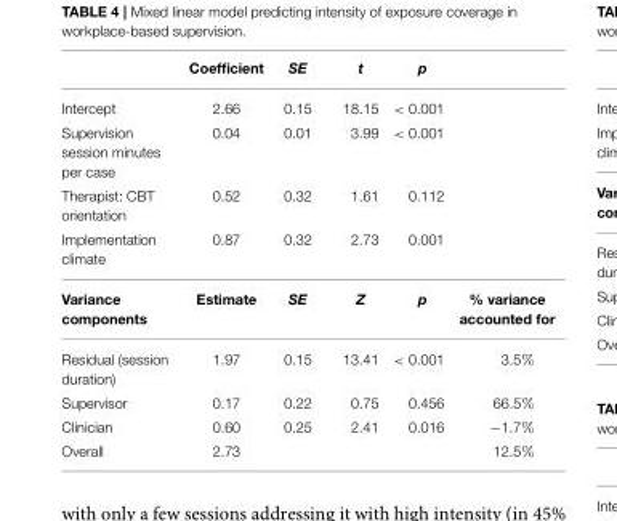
<table><thead><tr><td></td><td>Coefficient</td><td>SE</td><td>t</td><td>p</td><td></td></tr></thead><tbody><tr><td>Intercept</td><td>2.66</td><td>0.15</td><td>18.15</td><td>&lt; 0.001</td><td></td></tr><tr><td>Supervision session minutes per case</td><td>0.04</td><td>0.01</td><td>3.99</td><td>&lt; 0.001</td><td></td></tr><tr><td>Therapist: CBT orientation</td><td>0.52</td><td>0.32</td><td>1.61</td><td>0.112</td><td></td></tr><tr><td>Implementation climate</td><td>0.87</td><td>0.32</td><td>2.73</td><td>0.001</td><td></td></tr><tr><td>Variance components</td><td>Estimate</td><td>SE</td><td>Z</td><td>p</td><td>% variance accounted for</td></tr><tr><td>Residual (session duration)</td><td>1.97</td><td>0.15</td><td>13.41</td><td>&lt; 0.001</td><td>3.5%</td></tr><tr><td>Supervisor</td><td>0.17</td><td>0.22</td><td>0.75</td><td>0.456</td><td>66.5%</td></tr><tr><td>Clinician</td><td>0.60</td><td>0.25</td><td>2.41</td><td>0.016</td><td>−1.7%</td></tr><tr><td>Overall</td><td>2.73</td><td></td><td></td><td></td><td>12.5%</td></tr></tbody></table>